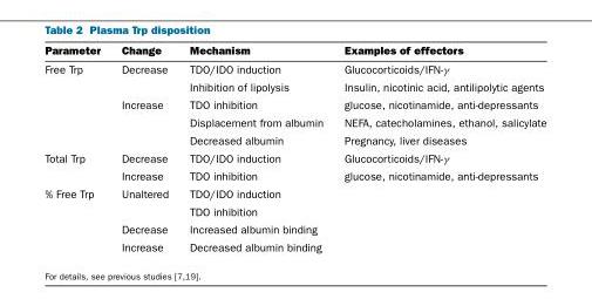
<table><thead><tr><td>Parameter</td><td>Change</td><td>Mechanism</td><td>Examples of effectors</td></tr></thead><tbody><tr><td rowspan="5">Free Trp</td><td>Decrease</td><td>TDO/IDO induction</td><td>Glucocorticoids/IFN-γ</td></tr><tr><td></td><td>Inhibition of lipolysis</td><td>Insulin, nicotinic acid, antilipolytic agents</td></tr><tr><td>Increase</td><td>TDO inhibition</td><td>glucose, nicotinamide, anti-depressants</td></tr><tr><td></td><td>Displacement from albumin</td><td>NEFA, catecholamines, ethanol, salicylate</td></tr><tr><td></td><td>Decreased albumin</td><td>Pregnancy, liver diseases</td></tr><tr><td rowspan="2">Total Trp</td><td>Decrease</td><td>TDO/IDO induction</td><td>Glucocorticoids/IFN-γ</td></tr><tr><td>Increase</td><td>TDO inhibition</td><td>glucose, nicotinamide, anti-depressants</td></tr><tr><td rowspan="4">% Free Trp</td><td>Unaltered</td><td>TDO/IDO induction</td><td></td></tr><tr><td></td><td>TDO inhibition</td><td></td></tr><tr><td>Decrease</td><td>Increased albumin binding</td><td></td></tr><tr><td>Increase</td><td>Decreased albumin binding</td><td></td></tr></tbody></table>